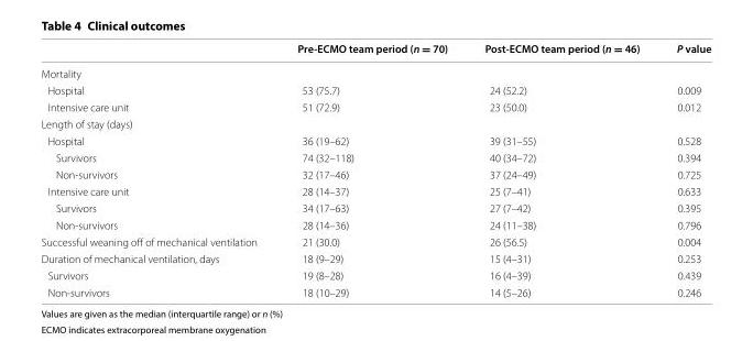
<table><thead><tr><td></td><td>Pre-ECMO team period (n = 70)</td><td>Post-ECMO team period (n = 46)</td><td>P value</td></tr></thead><tbody><tr><td colspan="4">Mortality</td></tr><tr><td>Hospital</td><td>53 (75.7)</td><td>24 (52.2)</td><td>0.009</td></tr><tr><td>Intensive care unit</td><td>51 (72.9)</td><td>23 (50.0)</td><td>0.012</td></tr><tr><td colspan="4">Length of stay (days)</td></tr><tr><td>Hospital</td><td>36 (19–62)</td><td>39 (31–55)</td><td>0.528</td></tr><tr><td>Survivors</td><td>74 (32–118)</td><td>40 (34–72)</td><td>0.394</td></tr><tr><td>Non-survivors</td><td>32 (17–46)</td><td>37 (24–49)</td><td>0.725</td></tr><tr><td>Intensive care unit</td><td>28 (14–37)</td><td>25 (7–41)</td><td>0.633</td></tr><tr><td>Survivors</td><td>34 (17–63)</td><td>27 (7–42)</td><td>0.395</td></tr><tr><td>Non-survivors</td><td>28 (14–36)</td><td>24 (11–38)</td><td>0.796</td></tr><tr><td>Successful weaning off of mechanical ventilation</td><td>21 (30.0)</td><td>26 (56.5)</td><td>0.004</td></tr><tr><td>Duration of mechanical ventilation, days</td><td>18 (9–29)</td><td>15 (4–31)</td><td>0.253</td></tr><tr><td>Survivors</td><td>19 (8–28)</td><td>16 (4–39)</td><td>0.439</td></tr><tr><td>Non-survivors</td><td>18 (10–29)</td><td>14 (5–26)</td><td>0.246</td></tr></tbody></table>